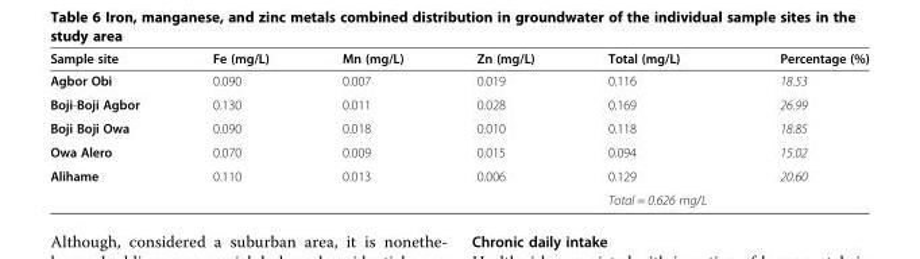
<table><thead><tr><td>Sample site</td><td>Fe (mg/L)</td><td>Mn (mg/L)</td><td>Zn (mg/L)</td><td>Total (mg/L)</td><td>Percentage (%)</td></tr></thead><tbody><tr><td>Agbor Obi</td><td>0.090</td><td>0.007</td><td>0.019</td><td>0.116</td><td>18.53</td></tr><tr><td>Boji-Boji Agbor</td><td>0.130</td><td>0.011</td><td>0.028</td><td>0.169</td><td>26.99</td></tr><tr><td>Boji Boji Owa</td><td>0.090</td><td>0.018</td><td>0.010</td><td>0.118</td><td>18.85</td></tr><tr><td>Owa Alero</td><td>0.070</td><td>0.009</td><td>0.015</td><td>0.094</td><td>15.02</td></tr><tr><td rowspan="2">Alihame</td><td>0.110</td><td>0.013</td><td>0.006</td><td>0.129</td><td>20.60</td></tr><tr><td></td><td></td><td></td><td>Total = 0.626 mg/L</td><td></td></tr></tbody></table>